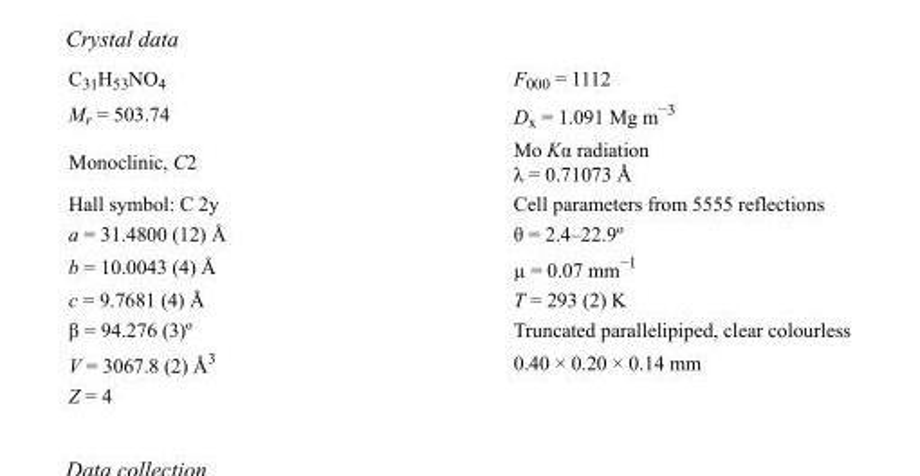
<table><tbody><tr><td>C<sub>31</sub>H<sub>53</sub>NO<sub>4</sub></td><td>F<sub>000</sub> = 1112</td></tr><tr><td>M<sub>r</sub> = 503.74</td><td>D<sub>x</sub> = 1.091 Mg m<sup>−3</sup></td></tr><tr><td>Monoclinic, C2</td><td>Mo Kα radiation λ = 0.71073 Å</td></tr><tr><td>Hall symbol: C 2y</td><td>Cell parameters from 5555 reflections</td></tr><tr><td>a = 31.4800 (12) Å</td><td>θ = 2.4–22.9º</td></tr><tr><td>b = 10.0043 (4) Å</td><td>µ = 0.07 mm<sup>−1</sup></td></tr><tr><td>c = 9.7681 (4) Å</td><td>T = 293 (2) K</td></tr><tr><td>β = 94.276 (3)º</td><td>Truncated parallelipiped, clear colourless</td></tr><tr><td>V = 3067.8 (2) Å<sup>3</sup></td><td>0.40 × 0.20 × 0.14 mm</td></tr><tr><td>Z = 4</td><td></td></tr></tbody></table>